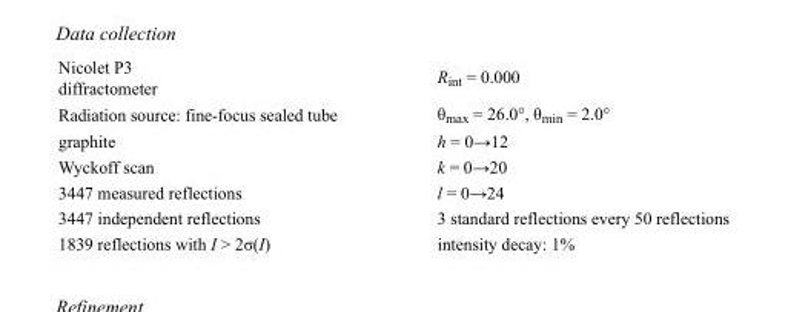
<table><tbody><tr><td>Nicolet P3 diffractometer</td><td>R<sub>int</sub> = 0.000</td></tr><tr><td>Radiation source: fine-focus sealed tube</td><td>θ<sub>max</sub> = 26.0°, θ<sub>min</sub> = 2.0°</td></tr><tr><td>graphite</td><td>h = 0→12</td></tr><tr><td>Wyckoff scan</td><td>k = 0→20</td></tr><tr><td>3447 measured reflections</td><td>l = 0→24</td></tr><tr><td>3447 independent reflections</td><td>3 standard reflections every 50 reflections</td></tr><tr><td>1839 reflections with I &gt; 2σ(I)</td><td>intensity decay: 1%</td></tr></tbody></table>